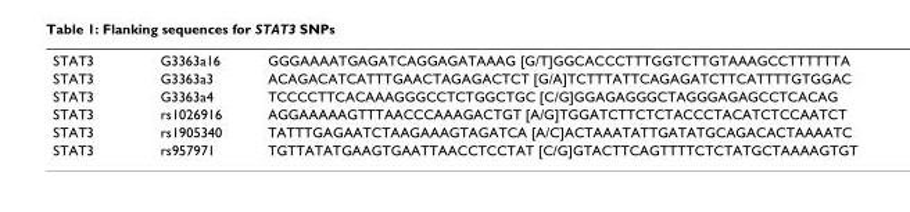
<table><tbody><tr><td>STAT3</td><td>G3363a16</td><td>GGGAAAATGAGATCAGGAGATAAAG [G/T]GGCACCCTTTGGTCTTGTAAAGCCTTTTTTA</td></tr><tr><td>STAT3</td><td>G3363a3</td><td>ACAGACATCATTTGAACTAGAGACTCT [G/A]TCTTTATTCAGAGATCTTCATTTTGTGGAC</td></tr><tr><td>STAT3</td><td>G3363a4</td><td>TCCCCTTCACAAAGGGCCTCTGGCTGC [C/G]GGAGAGGGCTAGGGAGAGCCTCACAG</td></tr><tr><td>STAT3</td><td>rs1026916</td><td>AGGAAAAAGTTTAACCCAAAGACTGT [A/G]TGGATCTTCTCTACCCTACATCTCCAATCT</td></tr><tr><td>STAT3</td><td>rs1905340</td><td>TATTTGAGAATCTAAGAAAGTAGATCA [A/C]ACTAAATATTGATATGCAGACACTAAAATC</td></tr><tr><td>STAT3</td><td>rs957971</td><td>TGTTATATGAAGTGAATTAACCTCCTAT [C/G]GTACTTCAGTTTTCTCTATGCTAAAAGTGT</td></tr></tbody></table>